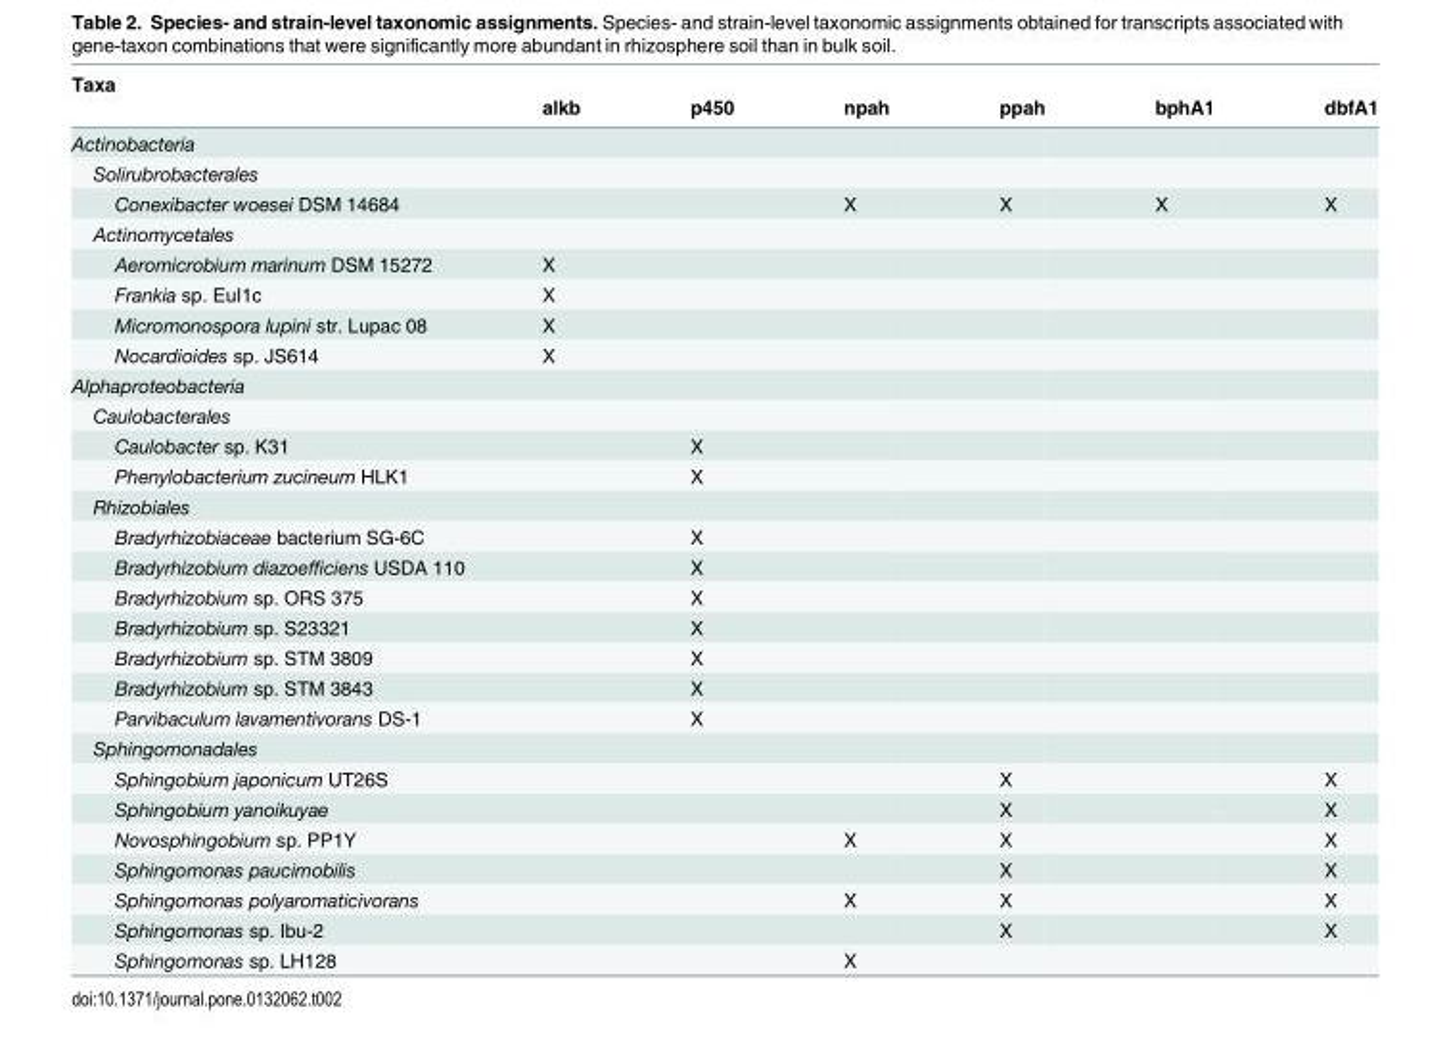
<table><thead><tr><td rowspan="2">Taxa</td><td rowspan="2">alkb</td><td rowspan="2">p450</td><td rowspan="2">npah</td><td rowspan="2">ppah</td><td rowspan="2">bphA1</td><td rowspan="2">dbfA1</td></tr><tr></tr></thead><tbody><tr><td colspan="7">Actinobacteria</td></tr><tr><td colspan="7">Solirubrobacterales</td></tr><tr><td>Conexibacter woesei DSM 14684</td><td></td><td></td><td>X</td><td>X</td><td>X</td><td>X</td></tr><tr><td colspan="7">Actinomycetales</td></tr><tr><td>Aeromicrobium marinum DSM 15272</td><td>X</td><td></td><td></td><td></td><td></td><td></td></tr><tr><td>Frankia sp. EuI1c</td><td>X</td><td></td><td></td><td></td><td></td><td></td></tr><tr><td>Micromonospora lupini str. Lupac 08</td><td>X</td><td></td><td></td><td></td><td></td><td></td></tr><tr><td>Nocardioides sp. JS614</td><td>X</td><td></td><td></td><td></td><td></td><td></td></tr><tr><td colspan="7">Alphaproteobacteria</td></tr><tr><td colspan="7">Caulobacterales</td></tr><tr><td>Caulobacter sp. K31</td><td></td><td>X</td><td></td><td></td><td></td><td></td></tr><tr><td>Phenylobacterium zucineum HLK1</td><td></td><td>X</td><td></td><td></td><td></td><td></td></tr><tr><td colspan="7">Rhizobiales</td></tr><tr><td>Bradyrhizobiaceae bacterium SG-6C</td><td></td><td>X</td><td></td><td></td><td></td><td></td></tr><tr><td colspan="2">Bradyrhizobium diazoefficiens USDA 110</td><td>X</td><td></td><td></td><td></td><td></td></tr><tr><td>Bradyrhizobium sp. ORS 375</td><td></td><td>X</td><td></td><td></td><td></td><td></td></tr><tr><td>Bradyrhizobium sp. S23321</td><td></td><td>X</td><td></td><td></td><td></td><td></td></tr><tr><td>Bradyrhizobium sp. STM 3809</td><td></td><td>X</td><td></td><td></td><td></td><td></td></tr><tr><td>Bradyrhizobium sp. STM 3843</td><td></td><td>X</td><td></td><td></td><td></td><td></td></tr><tr><td>Parvibaculum lavamentivorans DS-1</td><td></td><td>X</td><td></td><td></td><td></td><td></td></tr><tr><td colspan="7">Sphingomonadales</td></tr><tr><td>Sphingobium japonicum UT26S</td><td></td><td></td><td></td><td>X</td><td></td><td>X</td></tr><tr><td>Sphingobium yanoikuyae</td><td></td><td></td><td></td><td>X</td><td></td><td>X</td></tr><tr><td>Novosphingobium sp. PP1Y</td><td></td><td></td><td>X</td><td>X</td><td></td><td>X</td></tr><tr><td>Sphingomonas paucimobilis</td><td></td><td></td><td></td><td>X</td><td></td><td>X</td></tr><tr><td>Sphingomonas polyaromaticivorans</td><td></td><td></td><td>X</td><td>X</td><td></td><td>X</td></tr><tr><td>Sphingomonas sp. Ibu-2</td><td></td><td></td><td></td><td>X</td><td></td><td>X</td></tr><tr><td>Sphingomonas sp. LH128</td><td></td><td></td><td>X</td><td></td><td></td><td></td></tr></tbody></table>